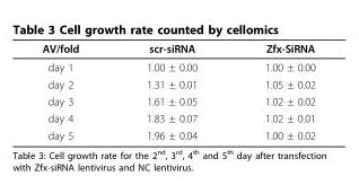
<table><thead><tr><td>AV/fold</td><td>scr-siRNA</td><td>Zfx-SiRNA</td></tr></thead><tbody><tr><td>day 1</td><td>1.00 ± 0.00</td><td>1.00 ± 0.00</td></tr><tr><td>day 2</td><td>1.31 ± 0.01</td><td>1.05 ± 0.02</td></tr><tr><td>day 3</td><td>1.61 ± 0.05</td><td>1.02 ± 0.02</td></tr><tr><td>day 4</td><td>1.83 ± 0.07</td><td>1.02 ± 0.01</td></tr><tr><td>day 5</td><td>1.96 ± 0.04</td><td>1.00 ± 0.02</td></tr></tbody></table>